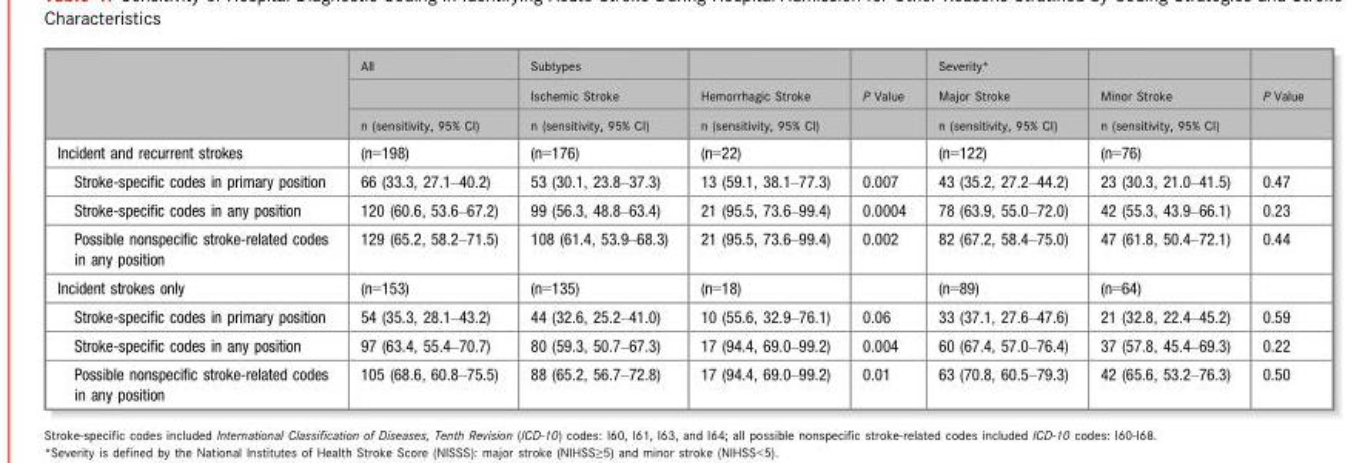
<table><thead><tr><td rowspan="3"></td><td rowspan="3">All n (sensitivity, 95% CI)</td><td rowspan="3">Subtypes Ischemic Stroke n (sensitivity, 95% CI)</td><td rowspan="3">Hemorrhagic Stroke n (sensitivity, 95% CI)</td><td rowspan="3">P Value</td><td rowspan="3">Severity* Major Stroke n (sensitivity, 95% CI)</td><td rowspan="3">Minor Stroke n (sensitivity, 95% CI)</td><td rowspan="3">P Value</td></tr><tr></tr><tr></tr></thead><tbody><tr><td>Incident and recurrent strokes</td><td>(n=198)</td><td>(n=176)</td><td>(n=22)</td><td></td><td>(n=122)</td><td>(n=76)</td><td></td></tr><tr><td>Stroke-specific codes in primary position</td><td>66 (33.3, 27.1–40.2)</td><td>53 (30.1, 23.8–37.3)</td><td>13 (59.1, 38.1–77.3)</td><td>0.007</td><td>43 (35.2, 27.2–44.2)</td><td>23 (30.3, 21.0–41.5)</td><td>0.47</td></tr><tr><td>Stroke-specific codes in any position</td><td>120 (60.6, 53.6–67.2)</td><td>99 (56.3, 48.8–63.4)</td><td>21 (95.5, 73.6–99.4)</td><td>0.0004</td><td>78 (63.9, 55.0–72.0)</td><td>42 (55.3, 43.9–66.1)</td><td>0.23</td></tr><tr><td>Possible nonspecific stroke-related codes in any position</td><td>129 (65.2, 58.2–71.5)</td><td>108 (61.4, 53.9–68.3)</td><td>21 (95.5, 73.6–99.4)</td><td>0.002</td><td>82 (67.2, 58.4–75.0)</td><td>47 (61.8, 50.4–72.1)</td><td>0.44</td></tr><tr><td>Incident strokes only</td><td>(n=153)</td><td>(n=135)</td><td>(n=18)</td><td></td><td>(n=89)</td><td>(n=64)</td><td></td></tr><tr><td>Stroke-specific codes in primary position</td><td>54 (35.3, 28.1–43.2)</td><td>44 (32.6, 25.2–41.0)</td><td>10 (55.6, 32.9–76.1)</td><td>0.06</td><td>33 (37.1, 27.6–47.6)</td><td>21 (32.8, 22.4–45.2)</td><td>0.59</td></tr><tr><td>Stroke-specific codes in any position</td><td>97 (63.4, 55.4–70.7)</td><td>80 (59.3, 50.7–67.3)</td><td>17 (94.4, 69.0–99.2)</td><td>0.004</td><td>60 (67.4, 57.0–76.4)</td><td>37 (57.8, 45.4–69.3)</td><td>0.22</td></tr><tr><td>Possible nonspecific stroke-related codes in any position</td><td>105 (68.6, 60.8–75.5)</td><td>88 (65.2, 56.7–72.8)</td><td>17 (94.4, 69.0–99.2)</td><td>0.01</td><td>63 (70.8, 60.5–79.3)</td><td>42 (65.6, 53.2–76.3)</td><td>0.50</td></tr></tbody></table>